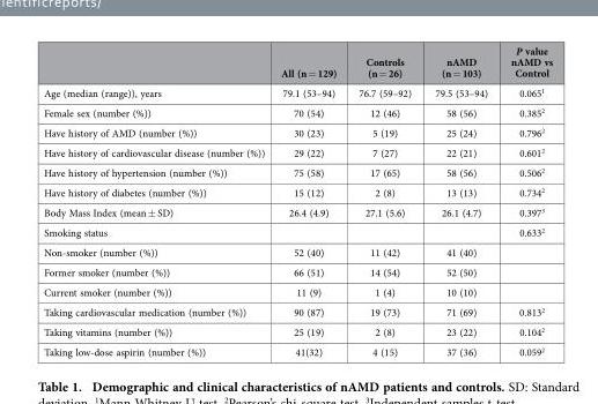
<table><thead><tr><td></td><td>All (n = 129)</td><td>Controls (n = 26)</td><td>nAMD (n = 103)</td><td>P value nAMD vs Control</td></tr></thead><tbody><tr><td>Age (median (range)), years</td><td>79.1 (53–94)</td><td>76.7 (59–92)</td><td>79.5 (53–94)</td><td>0.065<sup>1</sup></td></tr><tr><td>Female sex (number (%))</td><td>70 (54)</td><td>12 (46)</td><td>58 (56)</td><td>0.385<sup>2</sup></td></tr><tr><td>Have history of AMD (number (%))</td><td>30 (23)</td><td>5 (19)</td><td>25 (24)</td><td>0.796<sup>2</sup></td></tr><tr><td>Have history of cardiovascular disease (number (%))</td><td>29 (22)</td><td>7 (27)</td><td>22 (21)</td><td>0.601<sup>2</sup></td></tr><tr><td>Have history of hypertension (number (%))</td><td>75 (58)</td><td>17 (65)</td><td>58 (56)</td><td>0.506<sup>2</sup></td></tr><tr><td>Have history of diabetes (number (%))</td><td>15 (12)</td><td>2 (8)</td><td>13 (13)</td><td>0.734<sup>2</sup></td></tr><tr><td>Body Mass Index (mean ± SD)</td><td>26.4 (4.9)</td><td>27.1 (5.6)</td><td>26.1 (4.7)</td><td>0.397<sup>3</sup></td></tr><tr><td>Smoking status</td><td></td><td></td><td></td><td>0.633<sup>2</sup></td></tr><tr><td>Non-smoker (number (%))</td><td>52 (40)</td><td>11 (42)</td><td>41 (40)</td><td></td></tr><tr><td>Former smoker (number (%))</td><td>66 (51)</td><td>14 (54)</td><td>52 (50)</td><td></td></tr><tr><td>Current smoker (number (%))</td><td>11 (9)</td><td>1 (4)</td><td>10 (10)</td><td></td></tr><tr><td>Taking cardiovascular medication (number (%))</td><td>90 (87)</td><td>19 (73)</td><td>71 (69)</td><td>0.813<sup>2</sup></td></tr><tr><td>Taking vitamins (number (%))</td><td>25 (19)</td><td>2 (8)</td><td>23 (22)</td><td>0.104<sup>2</sup></td></tr><tr><td>Taking low-dose aspirin (number (%))</td><td>41(32)</td><td>4 (15)</td><td>37 (36)</td><td>0.059<sup>2</sup></td></tr></tbody></table>